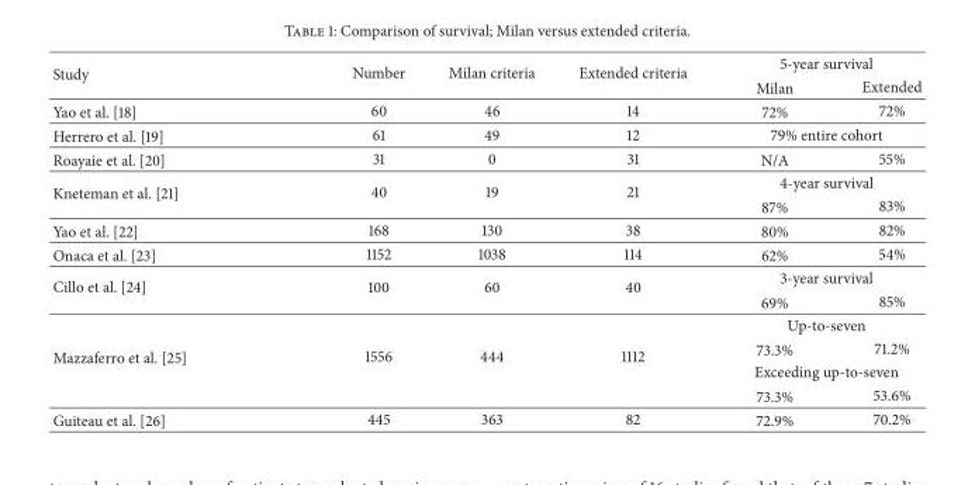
<table><thead><tr><td rowspan="2">Study</td><td rowspan="2">Number</td><td rowspan="2">Milan criteria</td><td rowspan="2">Extended criteria</td><td colspan="2">5-year survival</td></tr><tr><td>Milan</td><td>Extended</td></tr></thead><tbody><tr><td>Yao et al. [18]</td><td>60</td><td>46</td><td>14</td><td>72%</td><td>72%</td></tr><tr><td>Herrero et al. [19]</td><td>61</td><td>49</td><td>12</td><td colspan="2">79% entire cohort</td></tr><tr><td>Roayaie et al. [20]</td><td>31</td><td>0</td><td>31</td><td>N/A</td><td>55%</td></tr><tr><td rowspan="2">Kneteman et al. [21]</td><td rowspan="2">40</td><td rowspan="2">19</td><td rowspan="2">21</td><td colspan="2">4-year survival</td></tr><tr><td>87%</td><td>83%</td></tr><tr><td>Yao et al. [22]</td><td>168</td><td>130</td><td>38</td><td>80%</td><td>82%</td></tr><tr><td>Onaca et al. [23]</td><td>1152</td><td>1038</td><td>114</td><td>62%</td><td>54%</td></tr><tr><td rowspan="2">Cillo et al. [24]</td><td rowspan="2">100</td><td rowspan="2">60</td><td rowspan="2">40</td><td colspan="2">3-year survival</td></tr><tr><td>69%</td><td>85%</td></tr><tr><td rowspan="4">Mazzaferro et al. [25]</td><td rowspan="4">1556</td><td rowspan="4">444</td><td rowspan="4">1112</td><td colspan="2">Up-to-seven</td></tr><tr><td>73.3%</td><td>71.2%</td></tr><tr><td colspan="2">Exceeding up-to-seven</td></tr><tr><td>73.3%</td><td>53.6%</td></tr><tr><td>Guiteau et al. [26]</td><td>445</td><td>363</td><td>82</td><td>72.9%</td><td>70.2%</td></tr></tbody></table>